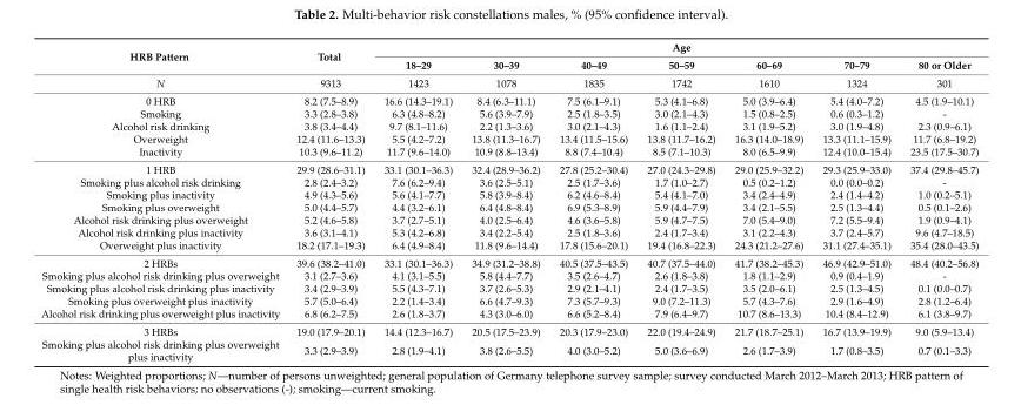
<table><thead><tr><td rowspan="2">HRB Pattern</td><td rowspan="2">Total</td><td colspan="7">Age</td></tr><tr><td>18–29</td><td>30–39</td><td>40–49</td><td>50–59</td><td>60–69</td><td>70–79</td><td>80 or Older</td></tr></thead><tbody><tr><td>N</td><td>9313</td><td>1423</td><td>1078</td><td>1835</td><td>1742</td><td>1610</td><td>1324</td><td>301</td></tr><tr><td>0 HRB</td><td>8.2 (7.5–8.9)</td><td>16.6 (14.3–19.1)</td><td>8.4 (6.3–11.1)</td><td>7.5 (6.1–9.1)</td><td>5.3 (4.1–6.8)</td><td>5.0 (3.9–6.4)</td><td>5.4 (4.0–7.2)</td><td>4.5 (1.9–10.1)</td></tr><tr><td>Smoking</td><td>3.3 (2.8–3.8)</td><td>6.3 (4.8–8.2)</td><td>5.6 (3.9–7.9)</td><td>2.5 (1.8–3.5)</td><td>3.0 (2.1–4.3)</td><td>1.5 (0.8–2.5)</td><td>0.6 (0.3–1.2)</td><td>-</td></tr><tr><td>Alcohol risk drinking</td><td>3.8 (3.4–4.4)</td><td>9.7 (8.1–11.6)</td><td>2.2 (1.3–3.6)</td><td>3.0 (2.1–4.3)</td><td>1.6 (1.1–2.4)</td><td>3.1 (1.9–5.2)</td><td>3.0 (1.9–4.8)</td><td>2.3 (0.9–6.1)</td></tr><tr><td>Overweight</td><td>12.4 (11.6–13.3)</td><td>5.5 (4.2–7.2)</td><td>13.8 (11.3–16.7)</td><td>13.4 (11.5–15.6)</td><td>13.8 (11.7–16.2)</td><td>16.3 (14.0–18.9)</td><td>13.3 (11.1–15.9)</td><td>11.7 (6.8–19.2)</td></tr><tr><td>Inactivity</td><td>10.3 (9.6–11.2)</td><td>11.7 (9.6–14.0)</td><td>10.9 (8.8–13.4)</td><td>8.8 (7.4–10.4)</td><td>8.5 (7.1–10.3)</td><td>8.0 (6.5–9.9)</td><td>12.4 (10.0–15.4)</td><td>23.5 (17.5–30.7)</td></tr><tr><td>1 HRB</td><td>29.9 (28.6–31.1)</td><td>33.1 (30.1–36.3)</td><td>32.4 (28.9–36.2)</td><td>27.8 (25.2–30.4)</td><td>27.0 (24.3–29.8)</td><td>29.0 (25.9–32.2)</td><td>29.3 (25.9–33.0)</td><td>37.4 (29.8–45.7)</td></tr><tr><td>Smoking plus alcohol risk drinking</td><td>2.8 (2.4–3.2)</td><td>7.6 (6.2–9.4)</td><td>3.6 (2.5–5.1)</td><td>2.5 (1.7–3.6)</td><td>1.7 (1.0–2.7)</td><td>0.5 (0.2–1.2)</td><td>0.0 (0.0–0.2)</td><td>-</td></tr><tr><td>Smoking plus inactivity</td><td>4.9 (4.3–5.6)</td><td>5.6 (4.1–7.7)</td><td>5.8 (3.9–8.4)</td><td>6.2 (4.6–8.4)</td><td>5.4 (4.1–7.0)</td><td>3.4 (2.4–4.9)</td><td>2.4 (1.4–4.2)</td><td>1.0 (0.2–5.1)</td></tr><tr><td>Smoking plus overweight</td><td>5.0 (4.4–5.7)</td><td>4.4 (3.2–6.1)</td><td>6.4 (4.8–8.4)</td><td>6.9 (5.3–8.9)</td><td>5.9 (4.4–7.9)</td><td>3.4 (2.1–5.5)</td><td>2.5 (1.3–4.4)</td><td>0.5 (0.1–2.6)</td></tr><tr><td>Alcohol risk drinking plus overweight</td><td>5.2 (4.6–5.8)</td><td>3.7 (2.7–5.1)</td><td>4.0 (2.5–6.4)</td><td>4.6 (3.6–5.8)</td><td>5.9 (4.7–7.5)</td><td>7.0 (5.4–9.0)</td><td>7.2 (5.5–9.4)</td><td>1.9 (0.9–4.1)</td></tr><tr><td>Alcohol risk drinking plus inactivity</td><td>3.6 (3.1–4.1)</td><td>5.3 (4.2–6.8)</td><td>3.4 (2.2–5.4)</td><td>2.5 (1.8–3.6)</td><td>2.4 (1.7–3.4)</td><td>3.1 (2.2–4.3)</td><td>3.7 (2.4–5.7)</td><td>9.6 (4.7–18.5)</td></tr><tr><td>Overweight plus inactivity</td><td>18.2 (17.1–19.3)</td><td>6.4 (4.9–8.4)</td><td>11.8 (9.6–14.4)</td><td>17.8 (15.6–20.1)</td><td>19.4 (16.8–22.3)</td><td>24.3 (21.2–27.6)</td><td>31.1 (27.4–35.1)</td><td>35.4 (28.0–43.5)</td></tr><tr><td>2 HRBs</td><td>39.6 (38.2–41.0)</td><td>33.1 (30.1–36.3)</td><td>34.9 (31.2–38.8)</td><td>40.5 (37.5–43.5)</td><td>40.7 (37.5–44.0)</td><td>41.7 (38.2–45.3)</td><td>46.9 (42.9–51.0)</td><td>48.4 (40.2–56.8)</td></tr><tr><td>Smoking plus alcohol risk drinking plus overweight</td><td>3.1 (2.7–3.6)</td><td>4.1 (3.1–5.5)</td><td>5.8 (4.4–7.7)</td><td>3.5 (2.6–4.7)</td><td>2.6 (1.8–3.8)</td><td>1.8 (1.1–2.9)</td><td>0.9 (0.4–1.9)</td><td>-</td></tr><tr><td>Smoking plus alcohol risk drinking plus inactivity</td><td>3.4 (2.9–3.9)</td><td>5.5 (4.3–7.1)</td><td>3.7 (2.6–5.3)</td><td>2.9 (2.1–4.1)</td><td>2.4 (1.7–3.5)</td><td>3.5 (2.0–6.1)</td><td>2.5 (1.3–4.5)</td><td>0.1 (0.0–0.7)</td></tr><tr><td>Smoking plus overweight plus inactivity</td><td>5.7 (5.0–6.4)</td><td>2.2 (1.4–3.4)</td><td>6.6 (4.7–9.3)</td><td>7.3 (5.7–9.3)</td><td>9.0 (7.2–11.3)</td><td>5.7 (4.3–7.6)</td><td>2.9 (1.6–4.9)</td><td>2.8 (1.2–6.4)</td></tr><tr><td>Alcohol risk drinking plus overweight plus inactivity</td><td>6.8 (6.2–7.5)</td><td>2.6 (1.8–3.7)</td><td>4.3 (3.0–6.0)</td><td>6.6 (5.2–8.4)</td><td>7.9 (6.4–9.7)</td><td>10.7 (8.6–13.3)</td><td>10.4 (8.4–12.9)</td><td>6.1 (3.8–9.7)</td></tr><tr><td>3 HRBs</td><td>19.0 (17.9–20.1)</td><td>14.4 (12.3–16.7)</td><td>20.5 (17.5–23.9)</td><td>20.3 (17.9–23.0)</td><td>22.0 (19.4–24.9)</td><td>21.7 (18.7–25.1)</td><td>16.7 (13.9–19.9)</td><td>9.0 (5.9–13.4)</td></tr><tr><td>Smoking plus alcohol risk drinking plus overweight plus inactivity</td><td>3.3 (2.9–3.9)</td><td>2.8 (1.9–4.1)</td><td>3.8 (2.6–5.5)</td><td>4.0 (3.0–5.2)</td><td>5.0 (3.6–6.9)</td><td>2.6 (1.7–3.9)</td><td>1.7 (0.8–3.5)</td><td>0.7 (0.1–3.3)</td></tr></tbody></table>